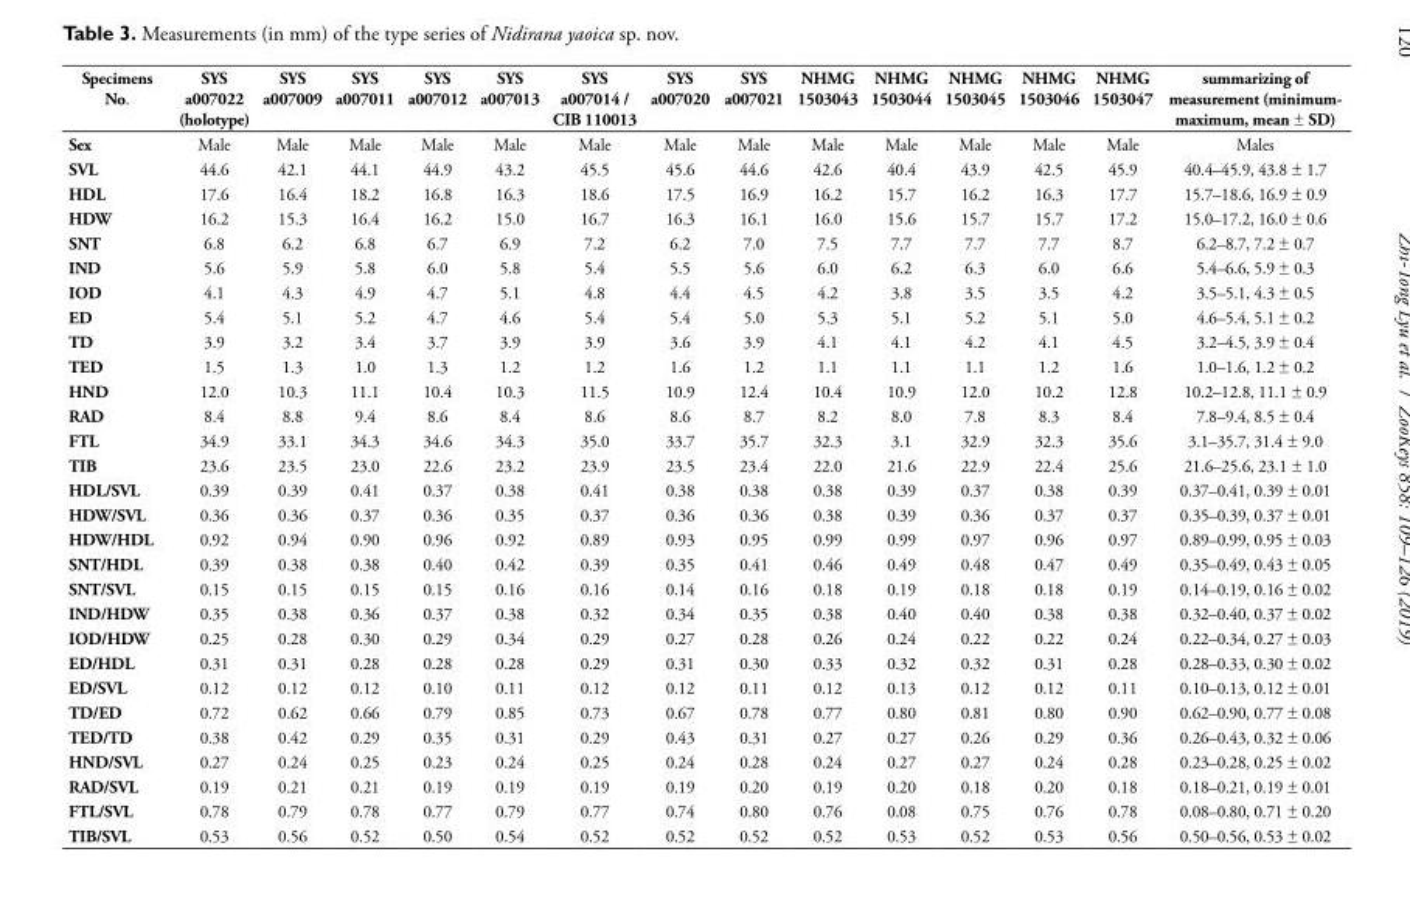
<table><thead><tr><td>Specimens No.</td><td>SYS a007022 (holotype)</td><td>SYS a007009</td><td>SYS a007011</td><td>SYS a007012</td><td>SYS a007013</td><td>SYS a007014 / CIB 110013</td><td>SYS a007020</td><td>SYS a007021</td><td>NHMG 1503043</td><td>NHMG 1503044</td><td>NHMG 1503045</td><td>NHMG 1503046</td><td>NHMG 1503047</td><td>summarizing of measurement (minimum- maximum, mean ± SD)</td></tr></thead><tbody><tr><td>Sex</td><td>Male</td><td>Male</td><td>Male</td><td>Male</td><td>Male</td><td>Male</td><td>Male</td><td>Male</td><td>Male</td><td>Male</td><td>Male</td><td>Male</td><td>Male</td><td>Males</td></tr><tr><td>SVL</td><td>44.6</td><td>42.1</td><td>44.1</td><td>44.9</td><td>43.2</td><td>45.5</td><td>45.6</td><td>44.6</td><td>42.6</td><td>40.4</td><td>43.9</td><td>42.5</td><td>45.9</td><td>40.4–45.9, 43.8 ± 1.7</td></tr><tr><td>HDL</td><td>17.6</td><td>16.4</td><td>18.2</td><td>16.8</td><td>16.3</td><td>18.6</td><td>17.5</td><td>16.9</td><td>16.2</td><td>15.7</td><td>16.2</td><td>16.3</td><td>17.7</td><td>15.7–18.6, 16.9 ± 0.9</td></tr><tr><td>HDW</td><td>16.2</td><td>15.3</td><td>16.4</td><td>16.2</td><td>15.0</td><td>16.7</td><td>16.3</td><td>16.1</td><td>16.0</td><td>15.6</td><td>15.7</td><td>15.7</td><td>17.2</td><td>15.0–17.2, 16.0 ± 0.6</td></tr><tr><td>SNT</td><td>6.8</td><td>6.2</td><td>6.8</td><td>6.7</td><td>6.9</td><td>7.2</td><td>6.2</td><td>7.0</td><td>7.5</td><td>7.7</td><td>7.7</td><td>7.7</td><td>8.7</td><td>6.2–8.7, 7.2 ± 0.7</td></tr><tr><td>IND</td><td>5.6</td><td>5.9</td><td>5.8</td><td>6.0</td><td>5.8</td><td>5.4</td><td>5.5</td><td>5.6</td><td>6.0</td><td>6.2</td><td>6.3</td><td>6.0</td><td>6.6</td><td>5.4–6.6, 5.9 ± 0.3</td></tr><tr><td>IOD</td><td>4.1</td><td>4.3</td><td>4.9</td><td>4.7</td><td>5.1</td><td>4.8</td><td>4.4</td><td>4.5</td><td>4.2</td><td>3.8</td><td>3.5</td><td>3.5</td><td>4.2</td><td>3.5–5.1, 4.3 ± 0.5</td></tr><tr><td>ED</td><td>5.4</td><td>5.1</td><td>5.2</td><td>4.7</td><td>4.6</td><td>5.4</td><td>5.4</td><td>5.0</td><td>5.3</td><td>5.1</td><td>5.2</td><td>5.1</td><td>5.0</td><td>4.6–5.4, 5.1 ± 0.2</td></tr><tr><td>TD</td><td>3.9</td><td>3.2</td><td>3.4</td><td>3.7</td><td>3.9</td><td>3.9</td><td>3.6</td><td>3.9</td><td>4.1</td><td>4.1</td><td>4.2</td><td>4.1</td><td>4.5</td><td>3.2–4.5, 3.9 ± 0.4</td></tr><tr><td>TED</td><td>1.5</td><td>1.3</td><td>1.0</td><td>1.3</td><td>1.2</td><td>1.2</td><td>1.6</td><td>1.2</td><td>1.1</td><td>1.1</td><td>1.1</td><td>1.2</td><td>1.6</td><td>1.0–1.6, 1.2 ± 0.2</td></tr><tr><td>HND</td><td>12.0</td><td>10.3</td><td>11.1</td><td>10.4</td><td>10.3</td><td>11.5</td><td>10.9</td><td>12.4</td><td>10.4</td><td>10.9</td><td>12.0</td><td>10.2</td><td>12.8</td><td>10.2–12.8, 11.1 ± 0.9</td></tr><tr><td>RAD</td><td>8.4</td><td>8.8</td><td>9.4</td><td>8.6</td><td>8.4</td><td>8.6</td><td>8.6</td><td>8.7</td><td>8.2</td><td>8.0</td><td>7.8</td><td>8.3</td><td>8.4</td><td>7.8–9.4, 8.5 ± 0.4</td></tr><tr><td>FTL</td><td>34.9</td><td>33.1</td><td>34.3</td><td>34.6</td><td>34.3</td><td>35.0</td><td>33.7</td><td>35.7</td><td>32.3</td><td>3.1</td><td>32.9</td><td>32.3</td><td>35.6</td><td>3.1–35.7, 31.4 ± 9.0</td></tr><tr><td>TIB</td><td>23.6</td><td>23.5</td><td>23.0</td><td>22.6</td><td>23.2</td><td>23.9</td><td>23.5</td><td>23.4</td><td>22.0</td><td>21.6</td><td>22.9</td><td>22.4</td><td>25.6</td><td>21.6–25.6, 23.1 ± 1.0</td></tr><tr><td>HDL/SVL</td><td>0.39</td><td>0.39</td><td>0.41</td><td>0.37</td><td>0.38</td><td>0.41</td><td>0.38</td><td>0.38</td><td>0.38</td><td>0.39</td><td>0.37</td><td>0.38</td><td>0.39</td><td>0.37–0.41, 0.39 ± 0.01</td></tr><tr><td>HDW/SVL</td><td>0.36</td><td>0.36</td><td>0.37</td><td>0.36</td><td>0.35</td><td>0.37</td><td>0.36</td><td>0.36</td><td>0.38</td><td>0.39</td><td>0.36</td><td>0.37</td><td>0.37</td><td>0.35–0.39, 0.37 ± 0.01</td></tr><tr><td>HDW/HDL</td><td>0.92</td><td>0.94</td><td>0.90</td><td>0.96</td><td>0.92</td><td>0.89</td><td>0.93</td><td>0.95</td><td>0.99</td><td>0.99</td><td>0.97</td><td>0.96</td><td>0.97</td><td>0.89–0.99, 0.95 ± 0.03</td></tr><tr><td>SNT/HDL</td><td>0.39</td><td>0.38</td><td>0.38</td><td>0.40</td><td>0.42</td><td>0.39</td><td>0.35</td><td>0.41</td><td>0.46</td><td>0.49</td><td>0.48</td><td>0.47</td><td>0.49</td><td>0.35–0.49, 0.43 ± 0.05</td></tr><tr><td>SNT/SVL</td><td>0.15</td><td>0.15</td><td>0.15</td><td>0.15</td><td>0.16</td><td>0.16</td><td>0.14</td><td>0.16</td><td>0.18</td><td>0.19</td><td>0.18</td><td>0.18</td><td>0.19</td><td>0.14–0.19, 0.16 ± 0.02</td></tr><tr><td>IND/HDW</td><td>0.35</td><td>0.38</td><td>0.36</td><td>0.37</td><td>0.38</td><td>0.32</td><td>0.34</td><td>0.35</td><td>0.38</td><td>0.40</td><td>0.40</td><td>0.38</td><td>0.38</td><td>0.32–0.40, 0.37 ± 0.02</td></tr><tr><td>IOD/HDW</td><td>0.25</td><td>0.28</td><td>0.30</td><td>0.29</td><td>0.34</td><td>0.29</td><td>0.27</td><td>0.28</td><td>0.26</td><td>0.24</td><td>0.22</td><td>0.22</td><td>0.24</td><td>0.22–0.34, 0.27 ± 0.03</td></tr><tr><td>ED/HDL</td><td>0.31</td><td>0.31</td><td>0.28</td><td>0.28</td><td>0.28</td><td>0.29</td><td>0.31</td><td>0.30</td><td>0.33</td><td>0.32</td><td>0.32</td><td>0.31</td><td>0.28</td><td>0.28–0.33, 0.30 ± 0.02</td></tr><tr><td>ED/SVL</td><td>0.12</td><td>0.12</td><td>0.12</td><td>0.10</td><td>0.11</td><td>0.12</td><td>0.12</td><td>0.11</td><td>0.12</td><td>0.13</td><td>0.12</td><td>0.12</td><td>0.11</td><td>0.10–0.13, 0.12 ± 0.01</td></tr><tr><td>TD/ED</td><td>0.72</td><td>0.62</td><td>0.66</td><td>0.79</td><td>0.85</td><td>0.73</td><td>0.67</td><td>0.78</td><td>0.77</td><td>0.80</td><td>0.81</td><td>0.80</td><td>0.90</td><td>0.62–0.90, 0.77 ± 0.08</td></tr><tr><td>TED/TD</td><td>0.38</td><td>0.42</td><td>0.29</td><td>0.35</td><td>0.31</td><td>0.29</td><td>0.43</td><td>0.31</td><td>0.27</td><td>0.27</td><td>0.26</td><td>0.29</td><td>0.36</td><td>0.26–0.43, 0.32 ± 0.06</td></tr><tr><td>HND/SVL</td><td>0.27</td><td>0.24</td><td>0.25</td><td>0.23</td><td>0.24</td><td>0.25</td><td>0.24</td><td>0.28</td><td>0.24</td><td>0.27</td><td>0.27</td><td>0.24</td><td>0.28</td><td>0.23–0.28, 0.25 ± 0.02</td></tr><tr><td>RAD/SVL</td><td>0.19</td><td>0.21</td><td>0.21</td><td>0.19</td><td>0.19</td><td>0.19</td><td>0.19</td><td>0.20</td><td>0.19</td><td>0.20</td><td>0.18</td><td>0.20</td><td>0.18</td><td>0.18–0.21, 0.19 ± 0.01</td></tr><tr><td>FTL/SVL</td><td>0.78</td><td>0.79</td><td>0.78</td><td>0.77</td><td>0.79</td><td>0.77</td><td>0.74</td><td>0.80</td><td>0.76</td><td>0.08</td><td>0.75</td><td>0.76</td><td>0.78</td><td>0.08–0.80, 0.71 ± 0.20</td></tr><tr><td>TIB/SVL</td><td>0.53</td><td>0.56</td><td>0.52</td><td>0.50</td><td>0.54</td><td>0.52</td><td>0.52</td><td>0.52</td><td>0.52</td><td>0.53</td><td>0.52</td><td>0.53</td><td>0.56</td><td>0.50–0.56, 0.53 ± 0.02</td></tr></tbody></table>